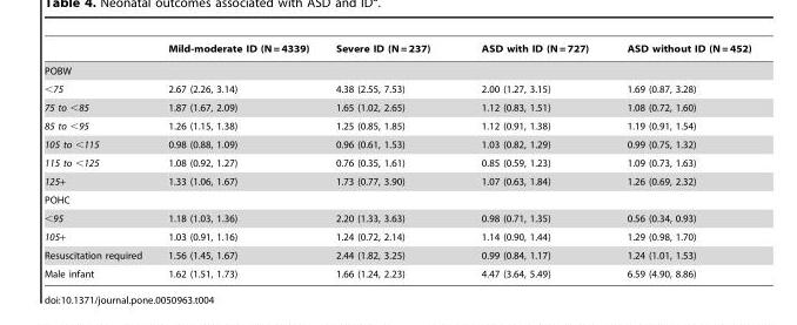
<table><thead><tr><td></td><td>Mild-moderate ID (N = 4339)</td><td>Severe ID (N = 237)</td><td>ASD with ID (N = 727)</td><td>ASD without ID (N = 452)</td></tr></thead><tbody><tr><td colspan="5">POBW</td></tr><tr><td>&lt;75</td><td>2.67 (2.26, 3.14)</td><td>4.38 (2.55, 7.53)</td><td>2.00 (1.27, 3.15)</td><td>1.69 (0.87, 3.28)</td></tr><tr><td>75 to &lt;85</td><td>1.87 (1.67, 2.09)</td><td>1.65 (1.02, 2.65)</td><td>1.12 (0.83, 1.51)</td><td>1.08 (0.72, 1.60)</td></tr><tr><td>85 to &lt;95</td><td>1.26 (1.15, 1.38)</td><td>1.25 (0.85, 1.85)</td><td>1.12 (0.91, 1.38)</td><td>1.19 (0.91, 1.54)</td></tr><tr><td>105 to &lt;115</td><td>0.98 (0.88, 1.09)</td><td>0.96 (0.61, 1.53)</td><td>1.03 (0.82, 1.29)</td><td>0.99 (0.75, 1.32)</td></tr><tr><td>115 to &lt;125</td><td>1.08 (0.92, 1.27)</td><td>0.76 (0.35, 1.61)</td><td>0.85 (0.59, 1.23)</td><td>1.09 (0.73, 1.63)</td></tr><tr><td>125+</td><td>1.33 (1.06, 1.67)</td><td>1.73 (0.77, 3.90)</td><td>1.07 (0.63, 1.84)</td><td>1.26 (0.69, 2.32)</td></tr><tr><td colspan="5">POHC</td></tr><tr><td>&lt;95</td><td>1.18 (1.03, 1.36)</td><td>2.20 (1.33, 3.63)</td><td>0.98 (0.71, 1.35)</td><td>0.56 (0.34, 0.93)</td></tr><tr><td>105+</td><td>1.03 (0.91, 1.16)</td><td>1.24 (0.72, 2.14)</td><td>1.14 (0.90, 1.44)</td><td>1.29 (0.98, 1.70)</td></tr><tr><td>Resuscitation required</td><td>1.56 (1.45, 1.67)</td><td>2.44 (1.82, 3.25)</td><td>0.99 (0.84, 1.17)</td><td>1.24 (1.01, 1.53)</td></tr><tr><td>Male infant</td><td>1.62 (1.51, 1.73)</td><td>1.66 (1.24, 2.23)</td><td>4.47 (3.64, 5.49)</td><td>6.59 (4.90, 8.86)</td></tr></tbody></table>